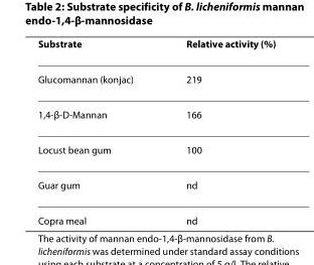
<table><thead><tr><td>Substrate</td><td>Relative activity (%)</td></tr></thead><tbody><tr><td>Glucomannan (konjac)</td><td>219</td></tr><tr><td>1,4-β-D-Mannan</td><td>166</td></tr><tr><td>Locust bean gum</td><td>100</td></tr><tr><td>Guar gum</td><td>nd</td></tr><tr><td>Copra meal</td><td>nd</td></tr></tbody></table>